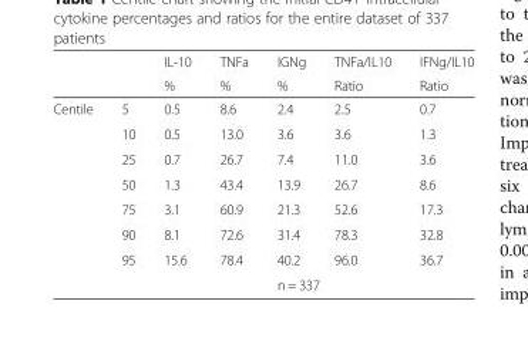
<table><thead><tr><td rowspan="2"></td><td rowspan="2"></td><td rowspan="2">IL-10 %</td><td rowspan="2">TNFa %</td><td rowspan="2">IGNg %</td><td rowspan="2">TNFa/IL10 Ratio</td><td rowspan="2">IFNg/IL10 Ratio</td></tr><tr></tr></thead><tbody><tr><td rowspan="8">Centile</td><td>5</td><td>0.5</td><td>8.6</td><td>2.4</td><td>2.5</td><td>0.7</td></tr><tr><td>10</td><td>0.5</td><td>13.0</td><td>3.6</td><td>3.6</td><td>1.3</td></tr><tr><td>25</td><td>0.7</td><td>26.7</td><td>7.4</td><td>11.0</td><td>3.6</td></tr><tr><td>50</td><td>1.3</td><td>43.4</td><td>13.9</td><td>26.7</td><td>8.6</td></tr><tr><td>75</td><td>3.1</td><td>60.9</td><td>21.3</td><td>52.6</td><td>17.3</td></tr><tr><td>90</td><td>8.1</td><td>72.6</td><td>31.4</td><td>78.3</td><td>32.8</td></tr><tr><td>95</td><td>15.6</td><td>78.4</td><td>40.2</td><td>96.0</td><td>36.7</td></tr><tr><td></td><td></td><td></td><td colspan="3">n = 337</td></tr></tbody></table>